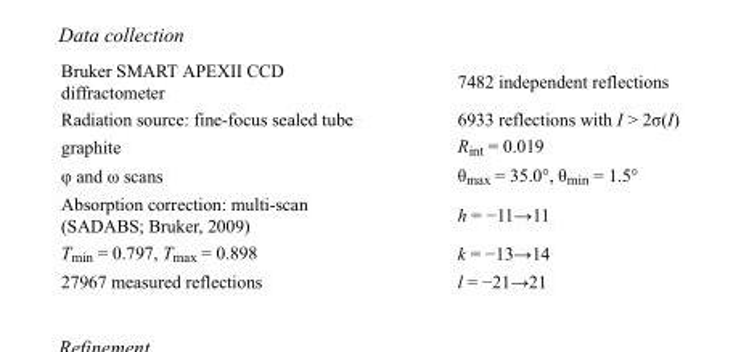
<table><tbody><tr><td>Bruker SMART APEXII CCD diffractometer</td><td>7482 independent reflections</td></tr><tr><td>Radiation source: fine-focus sealed tube</td><td>6933 reflections with I &gt; 2σ(I)</td></tr><tr><td>graphite</td><td>R<sub>int</sub> = 0.019</td></tr><tr><td>φ and ω scans</td><td>θ<sub>max</sub> = 35.0°, θ<sub>min</sub> = 1.5°</td></tr><tr><td>Absorption correction: multi-scan (SADABS; Bruker, 2009)</td><td>h = −11→11</td></tr><tr><td>T<sub>min</sub> = 0.797, T<sub>max</sub> = 0.898</td><td>k = −13→14</td></tr><tr><td>27967 measured reflections</td><td>l = −21→21</td></tr></tbody></table>